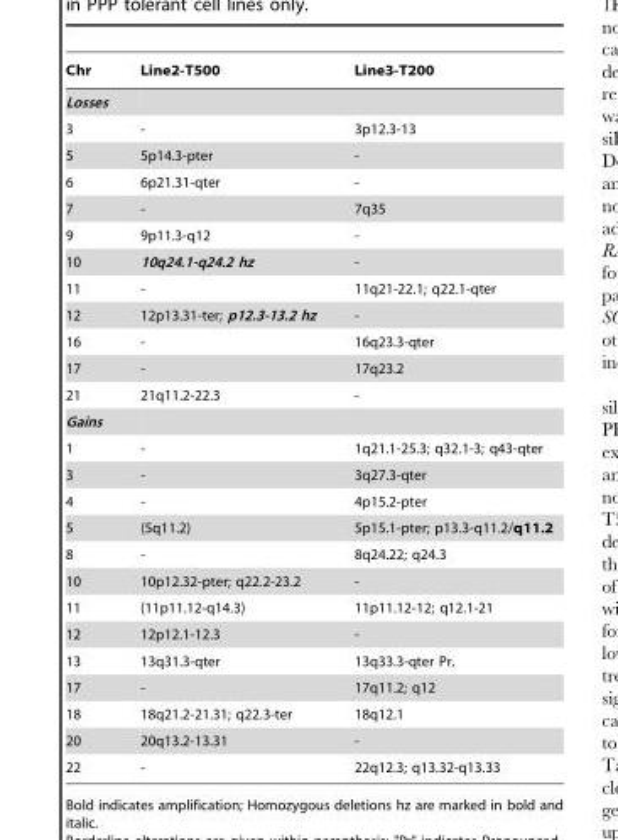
<table><thead><tr><td>Chr</td><td>Line2-T500</td><td>Line3-T200</td></tr></thead><tbody><tr><td colspan="3">Losses</td></tr><tr><td>3</td><td>-</td><td>3p12.3-13</td></tr><tr><td>5</td><td>5p14.3-pter</td><td>-</td></tr><tr><td>6</td><td>6p21.31-qter</td><td>-</td></tr><tr><td>7</td><td>-</td><td>7q35</td></tr><tr><td>9</td><td>9p11.3-q12</td><td>-</td></tr><tr><td>10</td><td>10q24.1-q24.2 hz</td><td>-</td></tr><tr><td>11</td><td>-</td><td>11q21-22.1; q22.1-qter</td></tr><tr><td>12</td><td>12p13.31-ter; p12.3-13.2 hz</td><td>-</td></tr><tr><td>16</td><td>-</td><td>16q23.3-qter</td></tr><tr><td>17</td><td>-</td><td>17q23.2</td></tr><tr><td>21</td><td>21q11.2-22.3</td><td>-</td></tr><tr><td colspan="3">Gains</td></tr><tr><td>1</td><td>-</td><td>1q21.1-25.3; q32.1-3; q43-qter</td></tr><tr><td>3</td><td>-</td><td>3q27.3-qter</td></tr><tr><td>4</td><td>-</td><td>4p15.2-pter</td></tr><tr><td>5</td><td>(5q11.2)</td><td>5p15.1-pter; p13.3-q11.2/q11.2</td></tr><tr><td>8</td><td>-</td><td>8q24.22; q24.3</td></tr><tr><td>10</td><td>10p12.32-pter; q22.2-23.2</td><td>-</td></tr><tr><td>11</td><td>(11p11.12-q14.3)</td><td>11p11.12-12; q12.1-21</td></tr><tr><td>12</td><td>12p12.1-12.3</td><td>-</td></tr><tr><td>13</td><td>13q31.3-qter</td><td>13q33.3-qter Pr.</td></tr><tr><td>17</td><td>-</td><td>17q11.2; q12</td></tr><tr><td>18</td><td>18q21.2-21.31; q22.3-ter</td><td>18q12.1</td></tr><tr><td>20</td><td>20q13.2-13.31</td><td>-</td></tr><tr><td>22</td><td>-</td><td>22q12.3; q13.32-q13.33</td></tr></tbody></table>